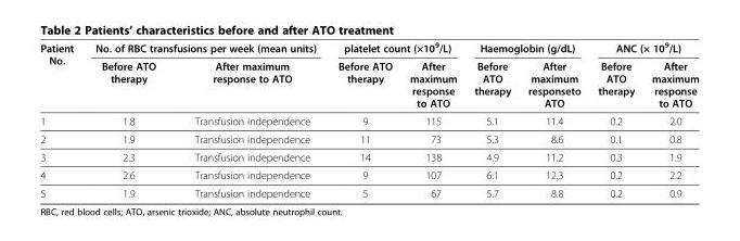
<table><thead><tr><td rowspan="2">Patient No.</td><td colspan="2">No. of RBC transfusions per week (mean units)</td><td colspan="2">platelet count (×10<sup>9</sup>/L)</td><td colspan="2">Haemoglobin (g/dL)</td><td colspan="2">ANC (× 10<sup>9</sup>/L)</td></tr><tr><td>Before ATO therapy</td><td>After maximum response to ATO</td><td>Before ATO therapy</td><td>After maximum response to ATO</td><td>Before ATO therapy</td><td>After maximum responseto ATO</td><td>Before ATO therapy</td><td>After maximum response to ATO</td></tr></thead><tbody><tr><td>1</td><td>1.8</td><td>Transfusion independence</td><td>9</td><td>115</td><td>5.1</td><td>11.4</td><td>0.2</td><td>2.0</td></tr><tr><td>2</td><td>1.9</td><td>Transfusion independence</td><td>11</td><td>73</td><td>5.3</td><td>8.6</td><td>0.1</td><td>0.8</td></tr><tr><td>3</td><td>2.3</td><td>Transfusion independence</td><td>14</td><td>138</td><td>4.9</td><td>11.2</td><td>0.3</td><td>1.9</td></tr><tr><td>4</td><td>2.6</td><td>Transfusion independence</td><td>9</td><td>107</td><td>6.1</td><td>12.3</td><td>0.2</td><td>2.2</td></tr><tr><td>5</td><td>1.9</td><td>Transfusion independence</td><td>5</td><td>67</td><td>5.7</td><td>8.8</td><td>0.2</td><td>0.9</td></tr></tbody></table>